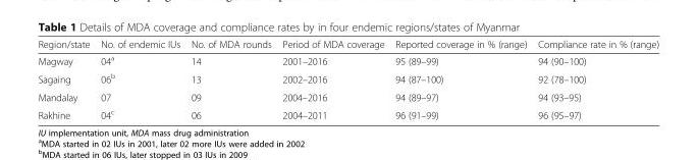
<table><thead><tr><td>Region/state</td><td>No. of endemic IUs</td><td>No. of MDA rounds</td><td>Period of MDA coverage</td><td>Reported coverage in % (range)</td><td>Compliance rate in % (range)</td></tr></thead><tbody><tr><td>Magway</td><td>04<sup>a</sup></td><td>14</td><td>2001–2016</td><td>95 (89–99)</td><td>94 (90–100)</td></tr><tr><td>Sagaing</td><td>06<sup>b</sup></td><td>13</td><td>2002–2016</td><td>94 (87–100)</td><td>92 (78–100)</td></tr><tr><td>Mandalay</td><td>07</td><td>09</td><td>2004–2016</td><td>94 (89–97)</td><td>94 (93–95)</td></tr><tr><td>Rakhine</td><td>04<sup>c</sup></td><td>06</td><td>2004–2011</td><td>96 (91–99)</td><td>96 (95–97)</td></tr></tbody></table>